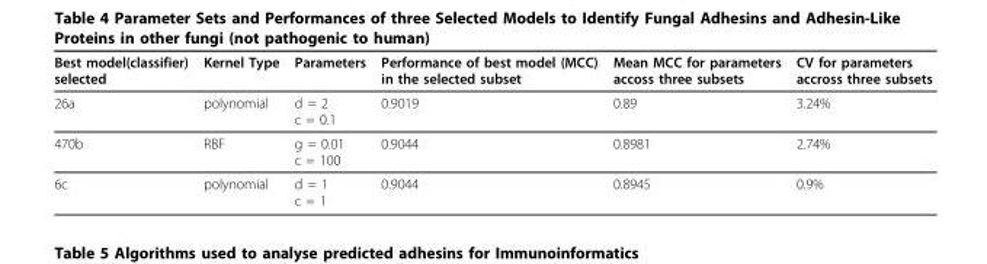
<table><thead><tr><td>Best model(classifier) selected</td><td>Kernel Type</td><td>Parameters</td><td>Performance of best model (MCC) in the selected subset</td><td>Mean MCC for parameters accoss three subsets</td><td>CV for parameters accross three subsets</td></tr></thead><tbody><tr><td>26a</td><td>polynomial</td><td>d = 2 c = 0.1</td><td>0.9019</td><td>0.89</td><td>3.24%</td></tr><tr><td>470b</td><td>RBF</td><td>g = 0.01 c = 100</td><td>0.9044</td><td>0.8981</td><td>2.74%</td></tr><tr><td>6c</td><td>polynomial</td><td>d = 1 c = 1</td><td>0.9044</td><td>0.8945</td><td>0.9%</td></tr></tbody></table>